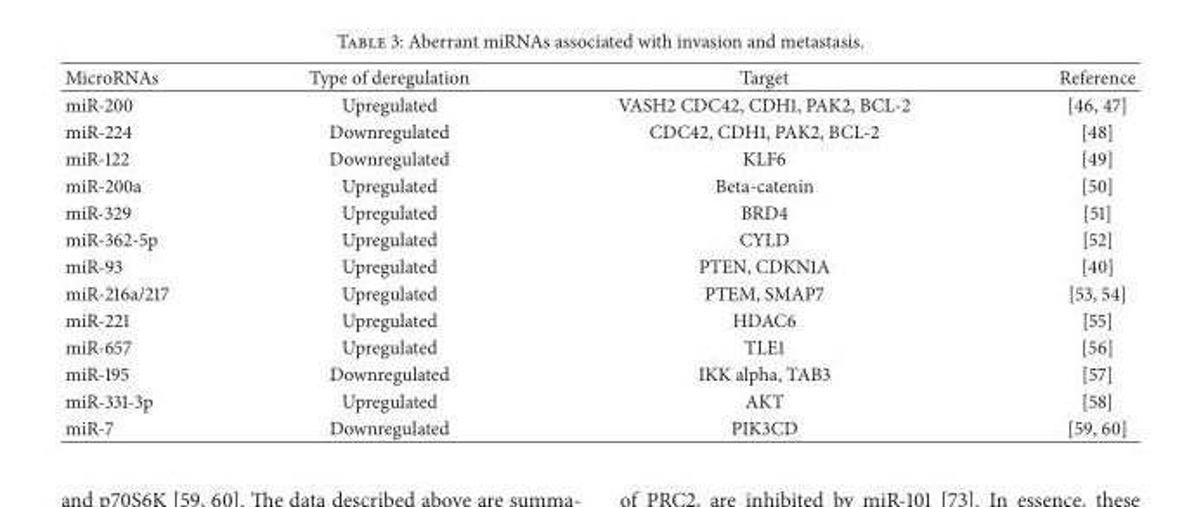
<table><thead><tr><td>MicroRNAs</td><td>Type of deregulation</td><td>Target</td><td>Reference</td></tr></thead><tbody><tr><td>miR-200</td><td>Upregulated</td><td>VASH2 CDC42, CDH1, PAK2, BCL-2</td><td>[46, 47]</td></tr><tr><td>miR-224</td><td>Downregulated</td><td>CDC42, CDH1, PAK2, BCL-2</td><td>[48]</td></tr><tr><td>miR-122</td><td>Downregulated</td><td>KLF6</td><td>[49]</td></tr><tr><td>miR-200a</td><td>Upregulated</td><td>Beta-catenin</td><td>[50]</td></tr><tr><td>miR-329</td><td>Upregulated</td><td>BRD4</td><td>[51]</td></tr><tr><td>miR-362-5p</td><td>Upregulated</td><td>CYLD</td><td>[52]</td></tr><tr><td>miR-93</td><td>Upregulated</td><td>PTEN, CDKN1A</td><td>[40]</td></tr><tr><td>miR-216a/217</td><td>Upregulated</td><td>PTEM, SMAP7</td><td>[53, 54]</td></tr><tr><td>miR-221</td><td>Upregulated</td><td>HDAC6</td><td>[55]</td></tr><tr><td>miR-657</td><td>Upregulated</td><td>TLE1</td><td>[56]</td></tr><tr><td>miR-195</td><td>Downregulated</td><td>IKK alpha, TAB3</td><td>[57]</td></tr><tr><td>miR-331-3p</td><td>Upregulated</td><td>AKT</td><td>[58]</td></tr><tr><td>miR-7</td><td>Downregulated</td><td>PIK3CD</td><td>[59, 60]</td></tr></tbody></table>